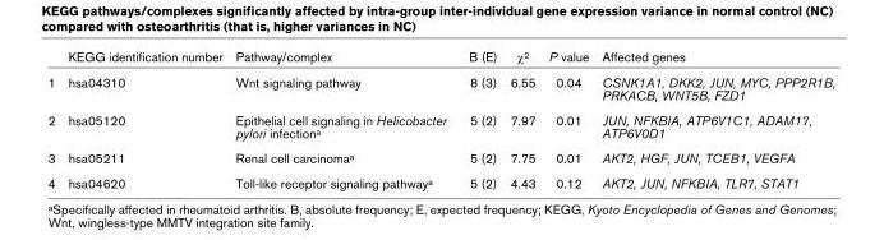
<table><thead><tr><td></td><td>KEGG identification number</td><td>Pathway/complex</td><td>B (E)</td><td>χ<sup>2</sup></td><td>P value</td><td>Affected genes</td></tr></thead><tbody><tr><td>1</td><td>hsa04310</td><td>Wnt signaling pathway</td><td>8 (3)</td><td>6.55</td><td>0.04</td><td>CSNK1A1, DKK2, JUN, MYC, PPP2R1B, PRKACB, WNT5B, FZD1</td></tr><tr><td>2</td><td>hsa05120</td><td>Epithelial cell signaling in Helicobacter pylori infection<sup>a</sup></td><td>5 (2)</td><td>7.97</td><td>0.01</td><td>JUN, NFKBIA, ATP6V1C1, ADAM17, ATP6V0D1</td></tr><tr><td>3</td><td>hsa05211</td><td>Renal cell carcinoma<sup>a</sup></td><td>5 (2)</td><td>7.75</td><td>0.01</td><td>AKT2, HGF, JUN, TCEB1, VEGFA</td></tr><tr><td>4</td><td>hsa04620</td><td>Toll-like receptor signaling pathway<sup>a</sup></td><td>5 (2)</td><td>4.43</td><td>0.12</td><td>AKT2, JUN, NFKBIA, TLR7, STAT1</td></tr></tbody></table>